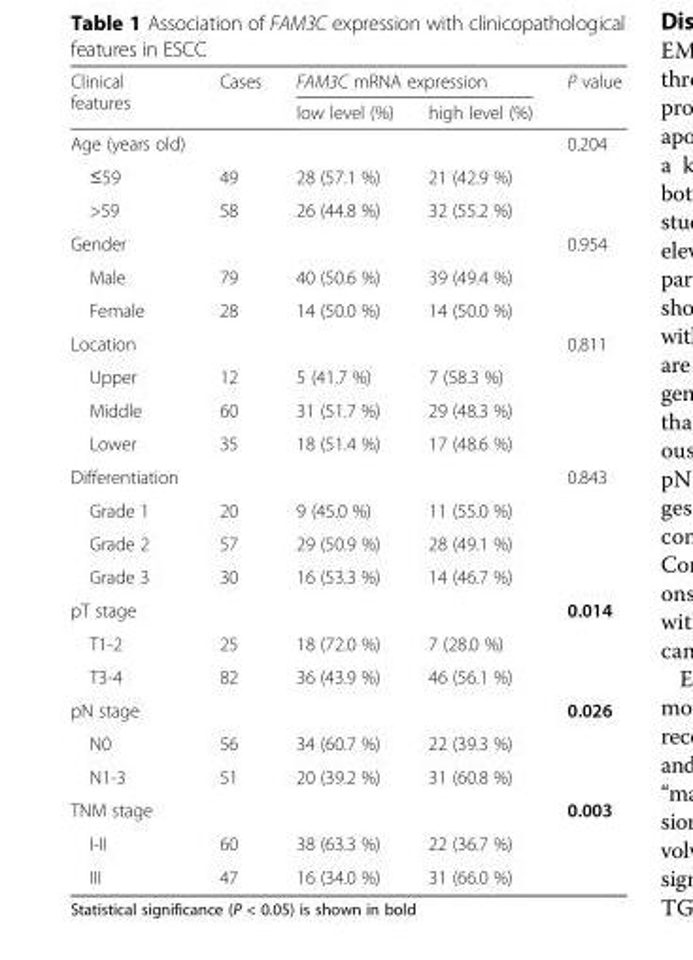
<table><thead><tr><td rowspan="2">Clinical features</td><td rowspan="2">Cases</td><td colspan="2">FAM3C mRNA expression</td><td rowspan="2">P value</td></tr><tr><td>low level (%)</td><td>high level (%)</td></tr></thead><tbody><tr><td>Age (years old)</td><td></td><td></td><td></td><td>0.204</td></tr><tr><td>≤59</td><td>49</td><td>28 (57.1 %)</td><td>21 (42.9 %)</td><td></td></tr><tr><td>&gt;59</td><td>58</td><td>26 (44.8 %)</td><td>32 (55.2 %)</td><td></td></tr><tr><td>Gender</td><td></td><td></td><td></td><td>0.954</td></tr><tr><td>Male</td><td>79</td><td>40 (50.6 %)</td><td>39 (49.4 %)</td><td></td></tr><tr><td>Female</td><td>28</td><td>14 (50.0 %)</td><td>14 (50.0 %)</td><td></td></tr><tr><td>Location</td><td></td><td></td><td></td><td>0.811</td></tr><tr><td>Upper</td><td>12</td><td>5 (41.7 %)</td><td>7 (58.3 %)</td><td></td></tr><tr><td>Middle</td><td>60</td><td>31 (51.7 %)</td><td>29 (48.3 %)</td><td></td></tr><tr><td>Lower</td><td>35</td><td>18 (51.4 %)</td><td>17 (48.6 %)</td><td></td></tr><tr><td>Differentiation</td><td></td><td></td><td></td><td>0.843</td></tr><tr><td>Grade 1</td><td>20</td><td>9 (45.0 %)</td><td>11 (55.0 %)</td><td></td></tr><tr><td>Grade 2</td><td>57</td><td>29 (50.9 %)</td><td>28 (49.1 %)</td><td></td></tr><tr><td>Grade 3</td><td>30</td><td>16 (53.3 %)</td><td>14 (46.7 %)</td><td></td></tr><tr><td>pT stage</td><td></td><td></td><td></td><td>0.014</td></tr><tr><td>T1-2</td><td>25</td><td>18 (72.0 %)</td><td>7 (28.0 %)</td><td></td></tr><tr><td>T3-4</td><td>82</td><td>36 (43.9 %)</td><td>46 (56.1 %)</td><td></td></tr><tr><td>pN stage</td><td></td><td></td><td></td><td>0.026</td></tr><tr><td>N0</td><td>56</td><td>34 (60.7 %)</td><td>22 (39.3 %)</td><td></td></tr><tr><td>N1-3</td><td>51</td><td>20 (39.2 %)</td><td>31 (60.8 %)</td><td></td></tr><tr><td>TNM stage</td><td></td><td></td><td></td><td>0.003</td></tr><tr><td>I-II</td><td>60</td><td>38 (63.3 %)</td><td>22 (36.7 %)</td><td></td></tr><tr><td>III</td><td>47</td><td>16 (34.0 %)</td><td>31 (66.0 %)</td><td></td></tr></tbody></table>